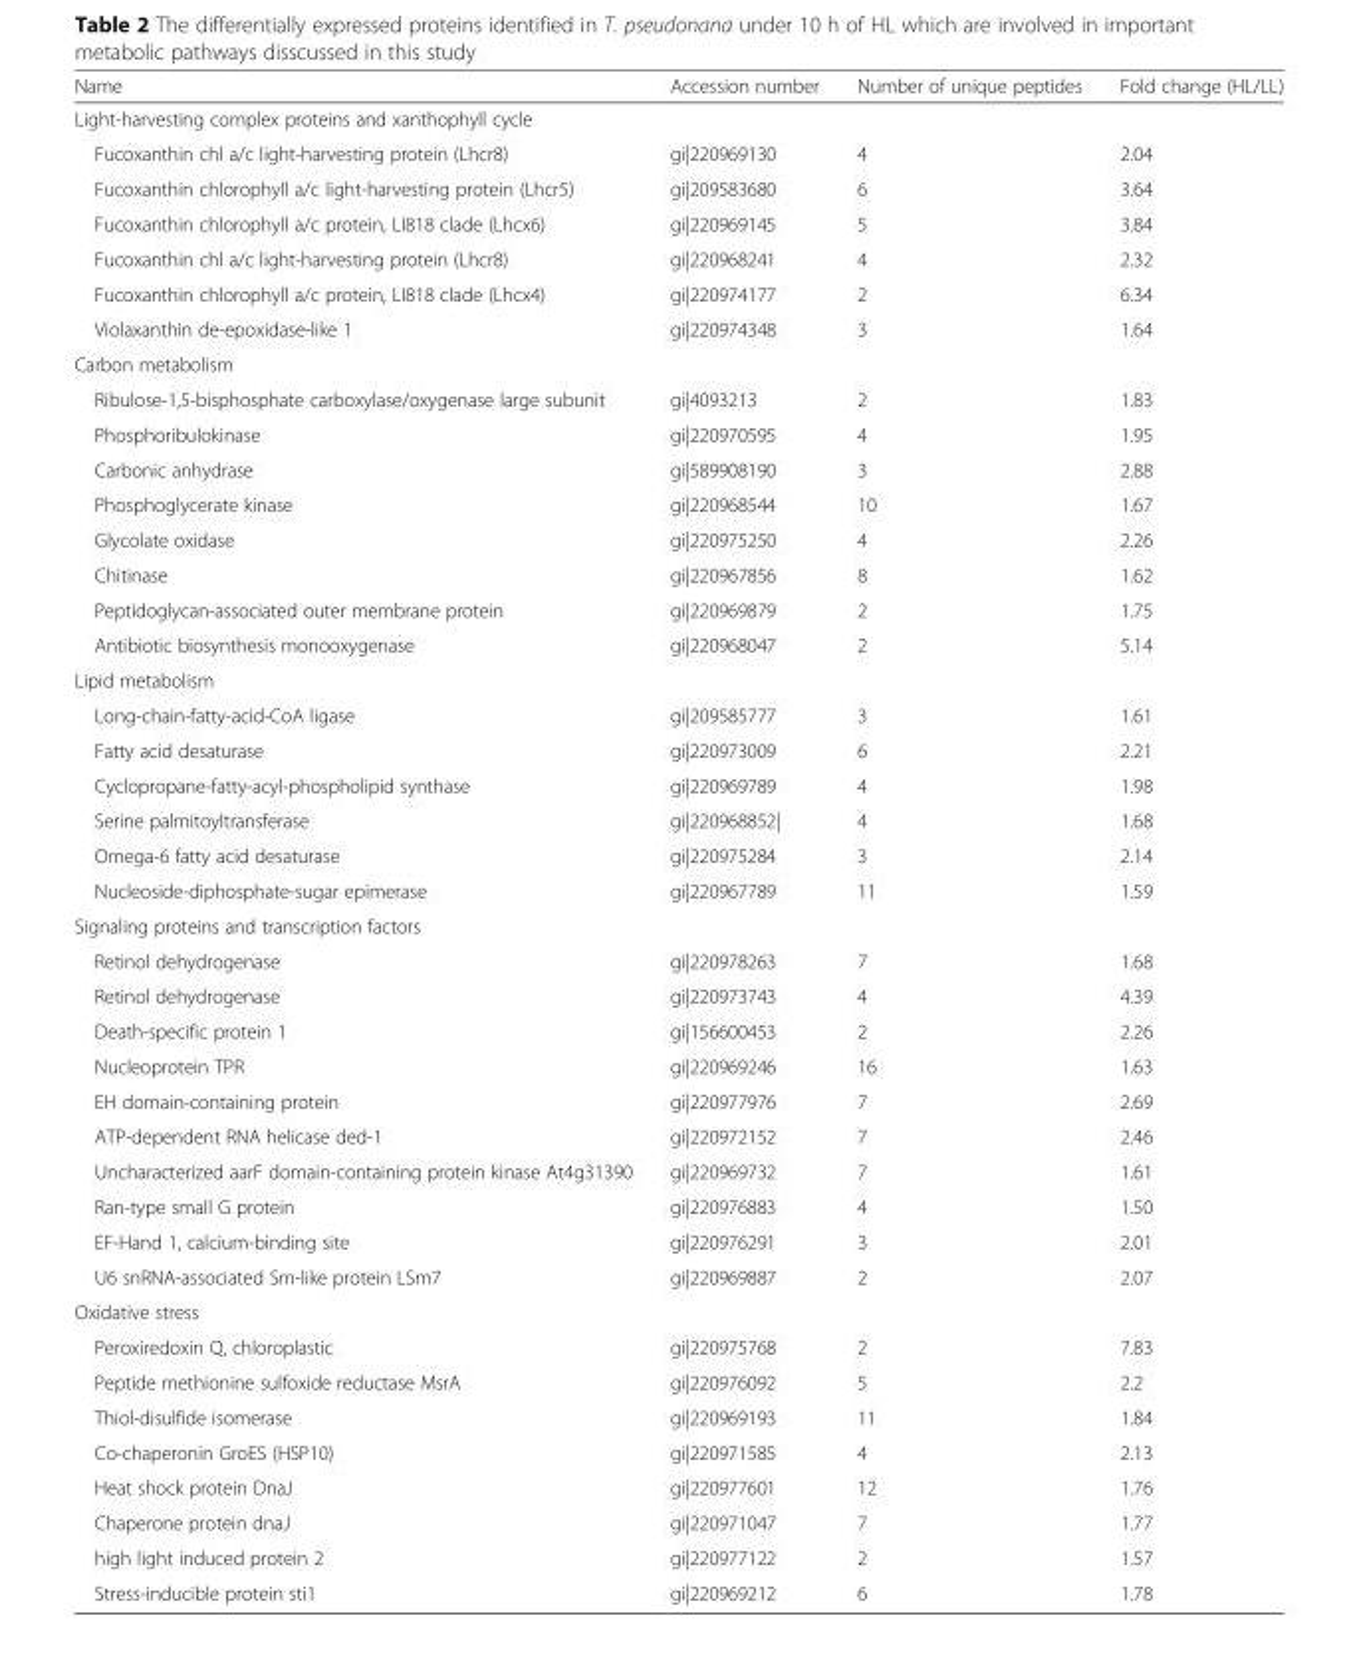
<table><thead><tr><td>Name</td><td>Accession number</td><td>Number of unique peptides</td><td>Fold change (HL/LL)</td></tr></thead><tbody><tr><td colspan="4">Light-harvesting complex proteins and xanthophyll cycle</td></tr><tr><td>Fucoxanthin chl a/c light-harvesting protein (Lhcr8)</td><td>gi|220969130</td><td>4</td><td>2.04</td></tr><tr><td>Fucoxanthin chlorophyll a/c light-harvesting protein (Lhcr5)</td><td>gi|209583680</td><td>6</td><td>3.64</td></tr><tr><td>Fucoxanthin chlorophyll a/c protein, LI818 clade (Lhcx6)</td><td>gi|220969145</td><td>5</td><td>3.84</td></tr><tr><td>Fucoxanthin chl a/c light-harvesting protein (Lhcr8)</td><td>gi|220968241</td><td>4</td><td>2.32</td></tr><tr><td>Fucoxanthin chlorophyll a/c protein, LI818 clade (Lhcx4)</td><td>gi|220974177</td><td>2</td><td>6.34</td></tr><tr><td>Violaxanthin de-epoxidase-like 1</td><td>gi|220974348</td><td>3</td><td>1.64</td></tr><tr><td colspan="4">Carbon metabolism</td></tr><tr><td>Ribulose-1,5-bisphosphate carboxylase/oxygenase large subunit</td><td>gi|4093213</td><td>2</td><td>1.83</td></tr><tr><td>Phosphoribulokinase</td><td>gi|220970595</td><td>4</td><td>1.95</td></tr><tr><td>Carbonic anhydrase</td><td>gi|589908190</td><td>3</td><td>2.88</td></tr><tr><td>Phosphoglycerate kinase</td><td>gi|220968544</td><td>10</td><td>1.67</td></tr><tr><td>Glycolate oxidase</td><td>gi|220975250</td><td>4</td><td>2.26</td></tr><tr><td>Chitinase</td><td>gi|220967856</td><td>8</td><td>1.62</td></tr><tr><td>Peptidoglycan-associated outer membrane protein</td><td>gi|220969879</td><td>2</td><td>1.75</td></tr><tr><td>Antibiotic biosynthesis monooxygenase</td><td>gi|220968047</td><td>2</td><td>5.14</td></tr><tr><td colspan="4">Lipid metabolism</td></tr><tr><td>Long-chain-fatty-acid-CoA ligase</td><td>gi|209585777</td><td>3</td><td>1.61</td></tr><tr><td>Fatty acid desaturase</td><td>gi|220973009</td><td>6</td><td>2.21</td></tr><tr><td>Cyclopropane-fatty-acyl-phospholipid synthase</td><td>gi|220969789</td><td>4</td><td>1.98</td></tr><tr><td>Serine palmitoyltransferase</td><td>gi|220968852|</td><td>4</td><td>1.68</td></tr><tr><td>Omega-6 fatty acid desaturase</td><td>gi|220975284</td><td>3</td><td>2.14</td></tr><tr><td>Nucleoside-diphosphate-sugar epimerase</td><td>gi|220967789</td><td>11</td><td>1.59</td></tr><tr><td colspan="4">Signaling proteins and transcription factors</td></tr><tr><td>Retinol dehydrogenase</td><td>gi|220978263</td><td>7</td><td>1.68</td></tr><tr><td>Retinol dehydrogenase</td><td>gi|220973743</td><td>4</td><td>4.39</td></tr><tr><td>Death-specific protein 1</td><td>gi|156600453</td><td>2</td><td>2.26</td></tr><tr><td>Nucleoprotein TPR</td><td>gi|220969246</td><td>16</td><td>1.63</td></tr><tr><td>EH domain-containing protein</td><td>gi|220977976</td><td>7</td><td>2.69</td></tr><tr><td>ATP-dependent RNA helicase ded-1</td><td>gi|220972152</td><td>7</td><td>2.46</td></tr><tr><td>Uncharacterized aarF domain-containing protein kinase At4g31390</td><td>gi|220969732</td><td>7</td><td>1.61</td></tr><tr><td>Ran-type small G protein</td><td>gi|220976883</td><td>4</td><td>1.50</td></tr><tr><td>EF-Hand 1, calcium-binding site</td><td>gi|220976291</td><td>3</td><td>2.01</td></tr><tr><td>U6 snRNA-associated Sm-like protein LSm7</td><td>gi|220969887</td><td>2</td><td>2.07</td></tr><tr><td colspan="4">Oxidative stress</td></tr><tr><td>Peroxiredoxin Q, chloroplastic</td><td>gi|220975768</td><td>2</td><td>7.83</td></tr><tr><td>Peptide methionine sulfoxide reductase MsrA</td><td>gi|220976092</td><td>5</td><td>2.2</td></tr><tr><td>Thiol-disulfide isomerase</td><td>gi|220969193</td><td>11</td><td>1.84</td></tr><tr><td>Co-chaperonin GroES (HSP10)</td><td>gi|220971585</td><td>4</td><td>2.13</td></tr><tr><td>Heat shock protein DnaJ</td><td>gi|220977601</td><td>12</td><td>1.76</td></tr><tr><td>Chaperone protein dnaJ</td><td>gi|220971047</td><td>7</td><td>1.77</td></tr><tr><td>high light induced protein 2</td><td>gi|220977122</td><td>2</td><td>1.57</td></tr><tr><td>Stress-inducible protein sti1</td><td>gi|220969212</td><td>6</td><td>1.78</td></tr></tbody></table>